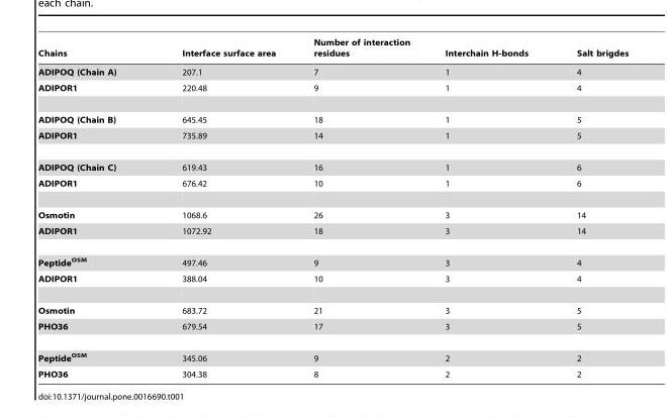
<table><thead><tr><td>Chains</td><td>Interface surface area</td><td>Number of interaction residues</td><td>Interchain H-bonds</td><td>Salt brigdes</td></tr></thead><tbody><tr><td>ADIPOQ (Chain A)</td><td>207.1</td><td>7</td><td>1</td><td>4</td></tr><tr><td>ADIPOR1</td><td>220.48</td><td>9</td><td>1</td><td>4</td></tr><tr><td>ADIPOQ (Chain B)</td><td>645.45</td><td>18</td><td>1</td><td>5</td></tr><tr><td>ADIPOR1</td><td>735.89</td><td>14</td><td>1</td><td>5</td></tr><tr><td>ADIPOQ (Chain C)</td><td>619.43</td><td>16</td><td>1</td><td>6</td></tr><tr><td>ADIPOR1</td><td>676.42</td><td>10</td><td>1</td><td>6</td></tr><tr><td>Osmotin</td><td>1068.6</td><td>26</td><td>3</td><td>14</td></tr><tr><td>ADIPOR1</td><td>1072.92</td><td>18</td><td>3</td><td>14</td></tr><tr><td>Peptide<sup>OSM</sup></td><td>497.46</td><td>9</td><td>3</td><td>4</td></tr><tr><td>ADIPOR1</td><td>388.04</td><td>10</td><td>3</td><td>4</td></tr><tr><td>Osmotin</td><td>683.72</td><td>21</td><td>3</td><td>5</td></tr><tr><td>PHO36</td><td>679.54</td><td>17</td><td>3</td><td>5</td></tr><tr><td>Peptide<sup>OSM</sup></td><td>345.06</td><td>9</td><td>2</td><td>2</td></tr><tr><td>PHO36</td><td>304.38</td><td>8</td><td>2</td><td>2</td></tr></tbody></table>